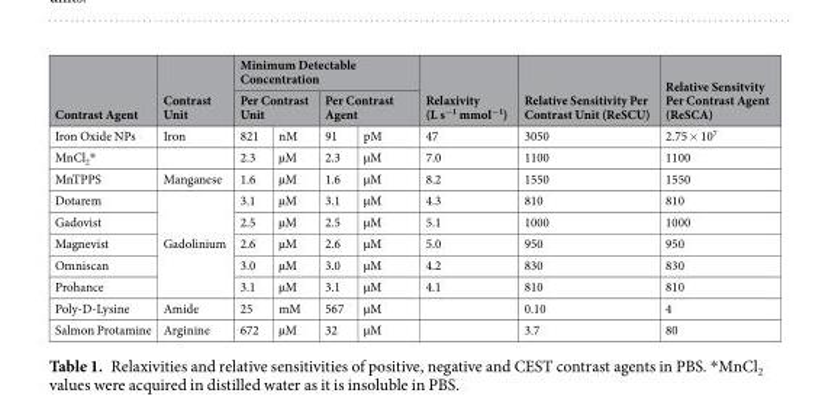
<table><thead><tr><td rowspan="3">Contrast Agent Iron Oxide NPs</td><td rowspan="3">Contrast Unit Iron</td><td colspan="4">Minimum Detectable Concentration</td><td rowspan="3">Relaxivity (L s<sup>−1</sup> mmol<sup>−1</sup>) 47</td><td rowspan="3">Relative Sensitivity Per Contrast Unit (ReSCU) 3050</td><td rowspan="3">Relative Sensitvity Per Contrast Agent (ReSCA) 2.75 × 10<sup>7</sup></td></tr><tr><td colspan="2">Per Contrast Unit</td><td colspan="2">Per Contrast Agent</td></tr><tr><td>821</td><td>nM</td><td>91</td><td>pM</td></tr></thead><tbody><tr><td>MnCl<sub>2</sub>*</td><td></td><td>2.3</td><td>µM</td><td>2.3</td><td>µM</td><td>7.0</td><td>1100</td><td>1100</td></tr><tr><td>MnTPPS</td><td>Manganese</td><td>1.6</td><td>µM</td><td>1.6</td><td>µM</td><td>8.2</td><td>1550</td><td>1550</td></tr><tr><td>Dotarem</td><td rowspan="5">Gadolinium</td><td>3.1</td><td>µM</td><td>3.1</td><td>µM</td><td>4.3</td><td>810</td><td>810</td></tr><tr><td>Gadovist</td><td>2.5</td><td>µM</td><td>2.5</td><td>µM</td><td>5.1</td><td>1000</td><td>1000</td></tr><tr><td>Magnevist</td><td>2.6</td><td>µM</td><td>2.6</td><td>µM</td><td>5.0</td><td>950</td><td>950</td></tr><tr><td>Omniscan</td><td>3.0</td><td>µM</td><td>3.0</td><td>µM</td><td>4.2</td><td>830</td><td>830</td></tr><tr><td>Prohance</td><td>3.1</td><td>µM</td><td>3.1</td><td>µM</td><td>4.1</td><td>810</td><td>810</td></tr><tr><td>Poly-D-Lysine</td><td>Amide</td><td>25</td><td>mM</td><td>567</td><td>µM</td><td></td><td>0.10</td><td>4</td></tr><tr><td>Salmon Protamine</td><td>Arginine</td><td>672</td><td>µM</td><td>32</td><td>µM</td><td></td><td>3.7</td><td>80</td></tr></tbody></table>